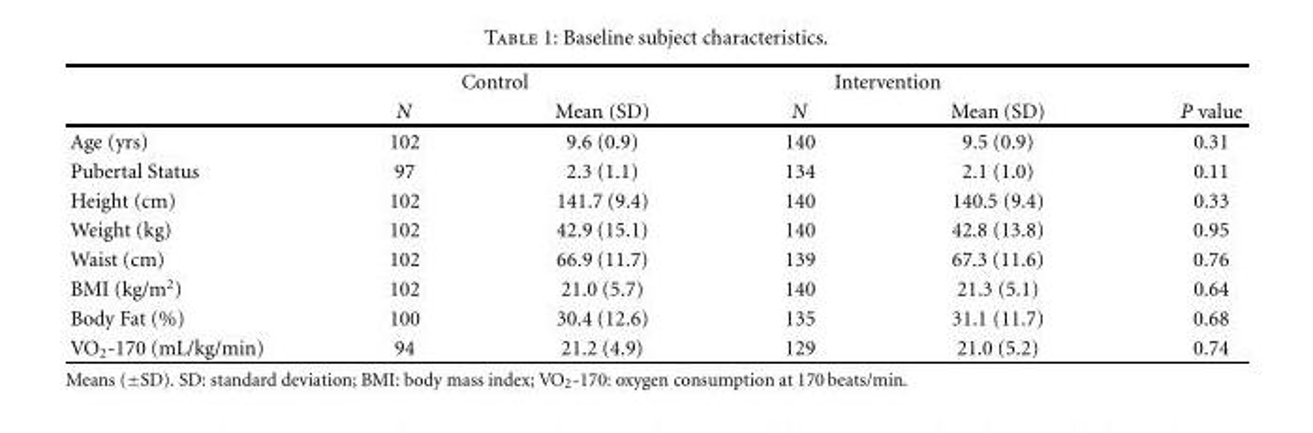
<table><thead><tr><td rowspan="2"></td><td colspan="2">Control</td><td colspan="2">Intervention</td><td rowspan="2">P value</td></tr><tr><td>N</td><td>Mean (SD)</td><td>N</td><td>Mean (SD)</td></tr></thead><tbody><tr><td>Age (yrs)</td><td>102</td><td>9.6 (0.9)</td><td>140</td><td>9.5 (0.9)</td><td>0.31</td></tr><tr><td>Pubertal Status</td><td>97</td><td>2.3 (1.1)</td><td>134</td><td>2.1 (1.0)</td><td>0.11</td></tr><tr><td>Height (cm)</td><td>102</td><td>141.7 (9.4)</td><td>140</td><td>140.5 (9.4)</td><td>0.33</td></tr><tr><td>Weight (kg)</td><td>102</td><td>42.9 (15.1)</td><td>140</td><td>42.8 (13.8)</td><td>0.95</td></tr><tr><td>Waist (cm)</td><td>102</td><td>66.9 (11.7)</td><td>139</td><td>67.3 (11.6)</td><td>0.76</td></tr><tr><td>BMI (kg/m<sup>2</sup>)</td><td>102</td><td>21.0 (5.7)</td><td>140</td><td>21.3 (5.1)</td><td>0.64</td></tr><tr><td>Body Fat (%)</td><td>100</td><td>30.4 (12.6)</td><td>135</td><td>31.1 (11.7)</td><td>0.68</td></tr><tr><td>VO<sub>2</sub>-170 (mL/kg/min)</td><td>94</td><td>21.2 (4.9)</td><td>129</td><td>21.0 (5.2)</td><td>0.74</td></tr></tbody></table>